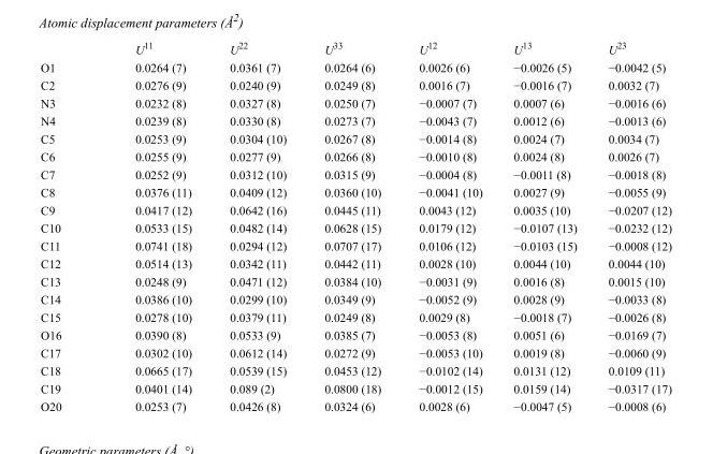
<table><thead><tr><td></td><td>U<sup>11</sup></td><td>U<sup>22</sup></td><td>U<sup>33</sup></td><td>U<sup>12</sup></td><td>U<sup>13</sup></td><td>U<sup>23</sup></td></tr></thead><tbody><tr><td>O1</td><td>0.0264 (7)</td><td>0.0361 (7)</td><td>0.0264 (6)</td><td>0.0026 (6)</td><td>−0.0026 (5)</td><td>−0.0042 (5)</td></tr><tr><td>C2</td><td>0.0276 (9)</td><td>0.0240 (9)</td><td>0.0249 (8)</td><td>0.0016 (7)</td><td>−0.0016 (7)</td><td>0.0032 (7)</td></tr><tr><td>N3</td><td>0.0232 (8)</td><td>0.0327 (8)</td><td>0.0250 (7)</td><td>−0.0007 (7)</td><td>0.0007 (6)</td><td>−0.0016 (6)</td></tr><tr><td>N4</td><td>0.0239 (8)</td><td>0.0330 (8)</td><td>0.0273 (7)</td><td>−0.0043 (7)</td><td>0.0012 (6)</td><td>−0.0013 (6)</td></tr><tr><td>C5</td><td>0.0253 (9)</td><td>0.0304 (10)</td><td>0.0267 (8)</td><td>−0.0014 (8)</td><td>0.0024 (7)</td><td>0.0034 (7)</td></tr><tr><td>C6</td><td>0.0255 (9)</td><td>0.0277 (9)</td><td>0.0266 (8)</td><td>−0.0010 (8)</td><td>0.0024 (8)</td><td>0.0026 (7)</td></tr><tr><td>C7</td><td>0.0252 (9)</td><td>0.0312 (10)</td><td>0.0315 (9)</td><td>−0.0004 (8)</td><td>−0.0011 (8)</td><td>−0.0018 (8)</td></tr><tr><td>C8</td><td>0.0376 (11)</td><td>0.0409 (12)</td><td>0.0360 (10)</td><td>−0.0041 (10)</td><td>0.0027 (9)</td><td>−0.0055 (9)</td></tr><tr><td>C9</td><td>0.0417 (12)</td><td>0.0642 (16)</td><td>0.0445 (11)</td><td>0.0043 (12)</td><td>0.0035 (10)</td><td>−0.0207 (12)</td></tr><tr><td>C10</td><td>0.0533 (15)</td><td>0.0482 (14)</td><td>0.0628 (15)</td><td>0.0179 (12)</td><td>−0.0107 (13)</td><td>−0.0232 (12)</td></tr><tr><td>C11</td><td>0.0741 (18)</td><td>0.0294 (12)</td><td>0.0707 (17)</td><td>0.0106 (12)</td><td>−0.0103 (15)</td><td>−0.0008 (12)</td></tr><tr><td>C12</td><td>0.0514 (13)</td><td>0.0342 (11)</td><td>0.0442 (11)</td><td>0.0028 (10)</td><td>0.0044 (10)</td><td>0.0044 (10)</td></tr><tr><td>C13</td><td>0.0248 (9)</td><td>0.0471 (12)</td><td>0.0384 (10)</td><td>−0.0031 (9)</td><td>0.0016 (8)</td><td>0.0015 (10)</td></tr><tr><td>C14</td><td>0.0386 (10)</td><td>0.0299 (10)</td><td>0.0349 (9)</td><td>−0.0052 (9)</td><td>0.0028 (9)</td><td>−0.0033 (8)</td></tr><tr><td>C15</td><td>0.0278 (10)</td><td>0.0379 (11)</td><td>0.0249 (8)</td><td>0.0029 (8)</td><td>−0.0018 (7)</td><td>−0.0026 (8)</td></tr><tr><td>O16</td><td>0.0390 (8)</td><td>0.0533 (9)</td><td>0.0385 (7)</td><td>−0.0053 (8)</td><td>0.0051 (6)</td><td>−0.0169 (7)</td></tr><tr><td>C17</td><td>0.0302 (10)</td><td>0.0612 (14)</td><td>0.0272 (9)</td><td>−0.0053 (10)</td><td>0.0019 (8)</td><td>−0.0060 (9)</td></tr><tr><td>C18</td><td>0.0665 (17)</td><td>0.0539 (15)</td><td>0.0453 (12)</td><td>−0.0102 (14)</td><td>0.0131 (12)</td><td>0.0109 (11)</td></tr><tr><td>C19</td><td>0.0401 (14)</td><td>0.089 (2)</td><td>0.0800 (18)</td><td>−0.0012 (15)</td><td>0.0159 (14)</td><td>−0.0317 (17)</td></tr><tr><td>O20</td><td>0.0253 (7)</td><td>0.0426 (8)</td><td>0.0324 (6)</td><td>0.0028 (6)</td><td>−0.0047 (5)</td><td>−0.0008 (6)</td></tr></tbody></table>